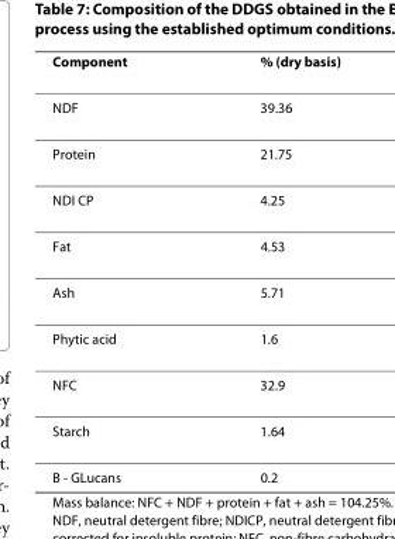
<table><thead><tr><td>Component</td><td>% (dry basis)</td></tr></thead><tbody><tr><td>NDF</td><td>39.36</td></tr><tr><td>Protein</td><td>21.75</td></tr><tr><td>NDI CP</td><td>4.25</td></tr><tr><td>Fat</td><td>4.53</td></tr><tr><td>Ash</td><td>5.71</td></tr><tr><td>Phytic acid</td><td>1.6</td></tr><tr><td>NFC</td><td>32.9</td></tr><tr><td>Starch</td><td>1.64</td></tr><tr><td>B - GLucans</td><td>0.2</td></tr></tbody></table>